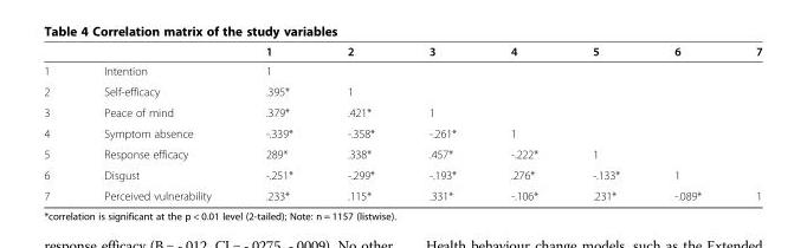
<table><thead><tr><td></td><td></td><td>1</td><td>2</td><td>3</td><td>4</td><td>5</td><td>6</td><td>7</td></tr></thead><tbody><tr><td>1</td><td>Intention</td><td>1</td><td></td><td></td><td></td><td></td><td></td><td></td></tr><tr><td>2</td><td>Self-efficacy</td><td>.395*</td><td>1</td><td></td><td></td><td></td><td></td><td></td></tr><tr><td>3</td><td>Peace of mind</td><td>.379*</td><td>.421*</td><td>1</td><td></td><td></td><td></td><td></td></tr><tr><td>4</td><td>Symptom absence</td><td>-.339*</td><td>-.358*</td><td>-.261*</td><td>1</td><td></td><td></td><td></td></tr><tr><td>5</td><td>Response efficacy</td><td>289*</td><td>.338*</td><td>.457*</td><td>-.222*</td><td>1</td><td></td><td></td></tr><tr><td>6</td><td>Disgust</td><td>-.251*</td><td>-.299*</td><td>-.193*</td><td>.276*</td><td>-.133*</td><td>1</td><td></td></tr><tr><td>7</td><td>Perceived vulnerability</td><td>.233*</td><td>.115*</td><td>.331*</td><td>-.106*</td><td>.231*</td><td>-.089*</td><td>1</td></tr></tbody></table>